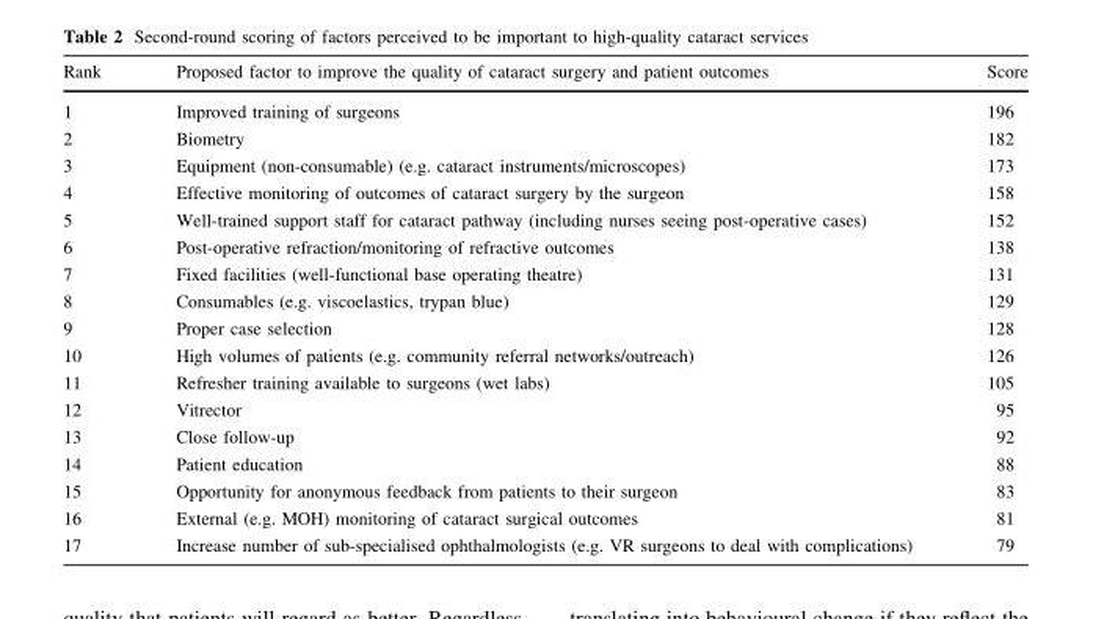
<table><thead><tr><td>Rank</td><td>Proposed factor to improve the quality of cataract surgery and patient outcomes</td><td>Score</td></tr></thead><tbody><tr><td>1</td><td>Improved training of surgeons</td><td>196</td></tr><tr><td>2</td><td>Biometry</td><td>182</td></tr><tr><td>3</td><td>Equipment (non-consumable) (e.g. cataract instruments/microscopes)</td><td>173</td></tr><tr><td>4</td><td>Effective monitoring of outcomes of cataract surgery by the surgeon</td><td>158</td></tr><tr><td>5</td><td>Well-trained support staff for cataract pathway (including nurses seeing post-operative cases)</td><td>152</td></tr><tr><td>6</td><td>Post-operative refraction/monitoring of refractive outcomes</td><td>138</td></tr><tr><td>7</td><td>Fixed facilities (well-functional base operating theatre)</td><td>131</td></tr><tr><td>8</td><td>Consumables (e.g. viscoelastics, trypan blue)</td><td>129</td></tr><tr><td>9</td><td>Proper case selection</td><td>128</td></tr><tr><td>10</td><td>High volumes of patients (e.g. community referral networks/outreach)</td><td>126</td></tr><tr><td>11</td><td>Refresher training available to surgeons (wet labs)</td><td>105</td></tr><tr><td>12</td><td>Vitrector</td><td>95</td></tr><tr><td>13</td><td>Close follow-up</td><td>92</td></tr><tr><td>14</td><td>Patient education</td><td>88</td></tr><tr><td>15</td><td>Opportunity for anonymous feedback from patients to their surgeon</td><td>83</td></tr><tr><td>16</td><td>External (e.g. MOH) monitoring of cataract surgical outcomes</td><td>81</td></tr><tr><td>17</td><td>Increase number of sub-specialised ophthalmologists (e.g. VR surgeons to deal with complications)</td><td>79</td></tr></tbody></table>